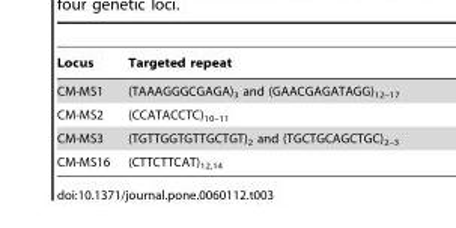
<table><thead><tr><td>Locus</td><td>Targeted repeat</td></tr></thead><tbody><tr><td>CM-MS1</td><td>(TAAAGGGCGAGA)<sub>3</sub> and (GAACGAGATAGG)<sub>12–17</sub></td></tr><tr><td>CM-MS2</td><td>(CCATACCTC)<sub>10–11</sub></td></tr><tr><td>CM-MS3</td><td>(TGTTGGTGTTGCTGT)<sub>2</sub> and (TGCTGCAGCTGC)<sub>2–3</sub></td></tr><tr><td>CM-MS16</td><td>(CTTCTTCAT)<sub>12,14</sub></td></tr></tbody></table>